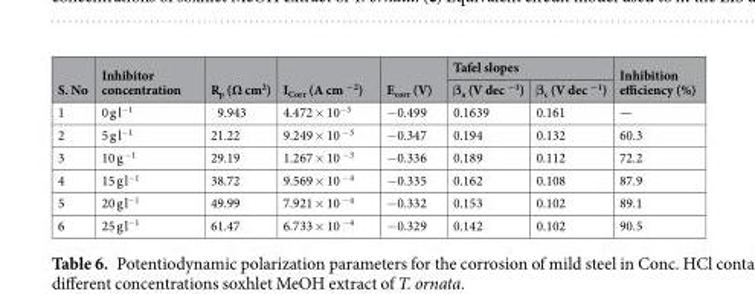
<table><thead><tr><td rowspan="2">S. No</td><td rowspan="2">Inhibitor concentration</td><td rowspan="2">R<sub>p</sub> (Ω cm<sup>2</sup>)</td><td rowspan="2">I<sub>Corr</sub> (A cm <sup>−2</sup>)</td><td rowspan="2">E<sub>corr</sub> (V)</td><td colspan="2">Tafel slopes</td><td rowspan="2">Inhibition efficiency (%)</td></tr><tr><td>β<sub>a</sub> (V dec <sup>−1</sup>)</td><td>β<sub>c</sub> (V dec <sup>−1</sup>)</td></tr></thead><tbody><tr><td>1</td><td>0 g l<sup>−1</sup></td><td>9.943</td><td>4.472 × 10<sup>−3</sup></td><td>−0.499</td><td>0.1639</td><td>0.161</td><td>—</td></tr><tr><td>2</td><td>5 g l<sup>−1</sup></td><td>21.22</td><td>9.249 × 10 <sup>−3</sup></td><td>−0.347</td><td>0.194</td><td>0.132</td><td>60.3</td></tr><tr><td>3</td><td>10 g <sup>−1</sup></td><td>29.19</td><td>1.267 × 10 <sup>−3</sup></td><td>−0.336</td><td>0.189</td><td>0.112</td><td>72.2</td></tr><tr><td>4</td><td>15 g l<sup>−1</sup></td><td>38.72</td><td>9.569 × 10 <sup>−4</sup></td><td>−0.335</td><td>0.162</td><td>0.108</td><td>87.9</td></tr><tr><td>5</td><td>20 g l<sup>−1</sup></td><td>49.99</td><td>7.921 × 10 <sup>−4</sup></td><td>−0.332</td><td>0.153</td><td>0.102</td><td>89.1</td></tr><tr><td>6</td><td>25 g l<sup>−1</sup></td><td>61.47</td><td>6.733 × 10 <sup>−4</sup></td><td>−0.329</td><td>0.142</td><td>0.102</td><td>90.5</td></tr></tbody></table>